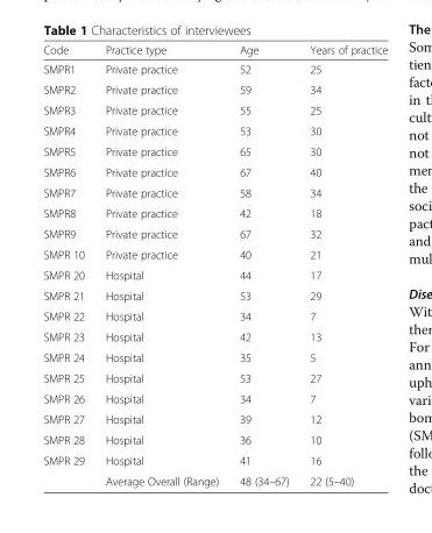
<table><thead><tr><td>Code</td><td>Practice type</td><td>Age</td><td>Years of practice</td></tr></thead><tbody><tr><td>SMPR1</td><td>Private practice</td><td>52</td><td>25</td></tr><tr><td>SMPR2</td><td>Private practice</td><td>59</td><td>34</td></tr><tr><td>SMPR3</td><td>Private practice</td><td>55</td><td>25</td></tr><tr><td>SMPR4</td><td>Private practice</td><td>53</td><td>30</td></tr><tr><td>SMPR5</td><td>Private practice</td><td>65</td><td>30</td></tr><tr><td>SMPR6</td><td>Private practice</td><td>67</td><td>40</td></tr><tr><td>SMPR7</td><td>Private practice</td><td>58</td><td>34</td></tr><tr><td>SMPR8</td><td>Private practice</td><td>42</td><td>18</td></tr><tr><td>SMPR9</td><td>Private practice</td><td>67</td><td>32</td></tr><tr><td>SMPR 10</td><td>Private practice</td><td>40</td><td>21</td></tr><tr><td>SMPR 20</td><td>Hospital</td><td>44</td><td>17</td></tr><tr><td>SMPR 21</td><td>Hospital</td><td>53</td><td>29</td></tr><tr><td>SMPR 22</td><td>Hospital</td><td>34</td><td>7</td></tr><tr><td>SMPR 23</td><td>Hospital</td><td>42</td><td>13</td></tr><tr><td>SMPR 24</td><td>Hospital</td><td>35</td><td>5</td></tr><tr><td>SMPR 25</td><td>Hospital</td><td>53</td><td>27</td></tr><tr><td>SMPR 26</td><td>Hospital</td><td>34</td><td>7</td></tr><tr><td>SMPR 27</td><td>Hospital</td><td>39</td><td>12</td></tr><tr><td>SMPR 28</td><td>Hospital</td><td>36</td><td>10</td></tr><tr><td rowspan="2">SMPR 29</td><td>Hospital</td><td>41</td><td>16</td></tr><tr><td>Average Overall (Range)</td><td>48 (34–67)</td><td>22 (5–40)</td></tr></tbody></table>